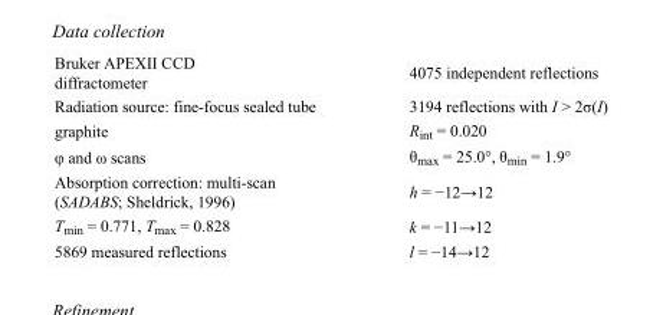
<table><tbody><tr><td>Bruker APEXII CCD diffractometer</td><td>4075 independent reflections</td></tr><tr><td>Radiation source: fine-focus sealed tube</td><td>3194 reflections with I &gt; 2σ(I)</td></tr><tr><td>graphite</td><td>R<sub>int</sub> = 0.020</td></tr><tr><td>φ and ω scans</td><td>θ<sub>max</sub> = 25.0°, θ<sub>min</sub> = 1.9°</td></tr><tr><td>Absorption correction: multi-scan (SADABS; Sheldrick, 1996)</td><td>h = −12→12</td></tr><tr><td>T<sub>min</sub> = 0.771, T<sub>max</sub> = 0.828</td><td>k = −11→12</td></tr><tr><td>5869 measured reflections</td><td>l = −14→12</td></tr></tbody></table>